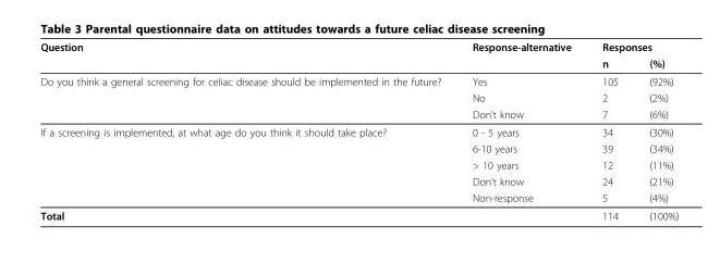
<table><thead><tr><td rowspan="2">Question</td><td rowspan="2">Response-alternative</td><td colspan="2">Responses</td></tr><tr><td>n</td><td>(%)</td></tr></thead><tbody><tr><td rowspan="3">Do you think a general screening for celiac disease should be implemented in the future?</td><td>Yes</td><td>105</td><td>(92%)</td></tr><tr><td>No</td><td>2</td><td>(2%)</td></tr><tr><td>Don’t know</td><td>7</td><td>(6%)</td></tr><tr><td rowspan="5">If a screening is implemented, at what age do you think it should take place?</td><td>0 - 5 years</td><td>34</td><td>(30%)</td></tr><tr><td>6-10 years</td><td>39</td><td>(34%)</td></tr><tr><td>&gt; 10 years</td><td>12</td><td>(11%)</td></tr><tr><td>Don’t know</td><td>24</td><td>(21%)</td></tr><tr><td>Non-response</td><td>5</td><td>(4%)</td></tr><tr><td>Total</td><td></td><td>114</td><td>(100%)</td></tr></tbody></table>